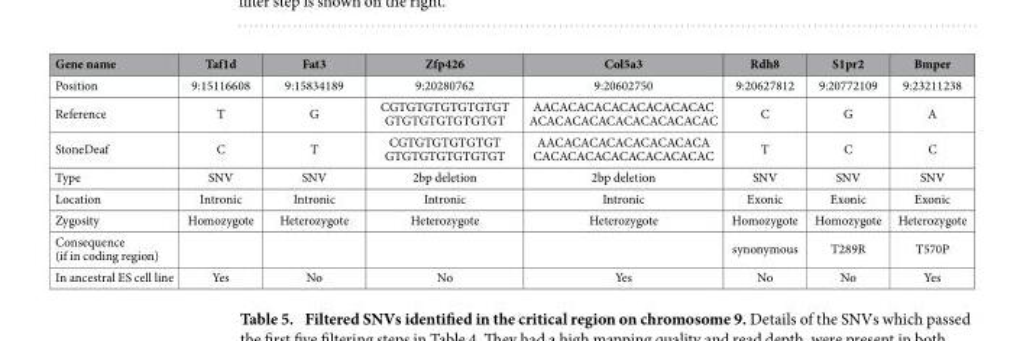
<table><thead><tr><td>Gene name</td><td>Taf1d</td><td>Fat3</td><td>Zfp426</td><td>Col5a3</td><td>Rdh8</td><td>S1pr2</td><td>Bmper</td></tr></thead><tbody><tr><td>Position</td><td>9:15116608</td><td>9:15834189</td><td>9:20280762</td><td>9:20602750</td><td>9:20627812</td><td>9:20772109</td><td>9:23211238</td></tr><tr><td>Reference</td><td>T</td><td>G</td><td>CGTGTGTGTGTGTGT GTGTGTGTGTGTGT</td><td>AACACACACACACACACACAC ACACACACACACACACACACAC</td><td>C</td><td>G</td><td>A</td></tr><tr><td>StoneDeaf</td><td>C</td><td>T</td><td>CGTGTGTGTGTGT GTGTGTGTGTGTGT</td><td>AACACACACACACACACACA CACACACACACACACACACAC</td><td>T</td><td>C</td><td>C</td></tr><tr><td>Type</td><td>SNV</td><td>SNV</td><td>2bp deletion</td><td>2bp deletion</td><td>SNV</td><td>SNV</td><td>SNV</td></tr><tr><td>Location</td><td>Intronic</td><td>Intronic</td><td>Intronic</td><td>Intronic</td><td>Exonic</td><td>Exonic</td><td>Exonic</td></tr><tr><td>Zygosity</td><td>Homozygote</td><td>Heterozygote</td><td>Heterozygote</td><td>Heterozygote</td><td>Homozygote</td><td>Homozygote</td><td>Heterozygote</td></tr><tr><td>Consequence (if in coding region)</td><td></td><td></td><td></td><td></td><td>synonymous</td><td>T289R</td><td>T570P</td></tr><tr><td>In ancestral ES cell line</td><td>Yes</td><td>No</td><td>No</td><td>Yes</td><td>No</td><td>No</td><td>Yes</td></tr></tbody></table>